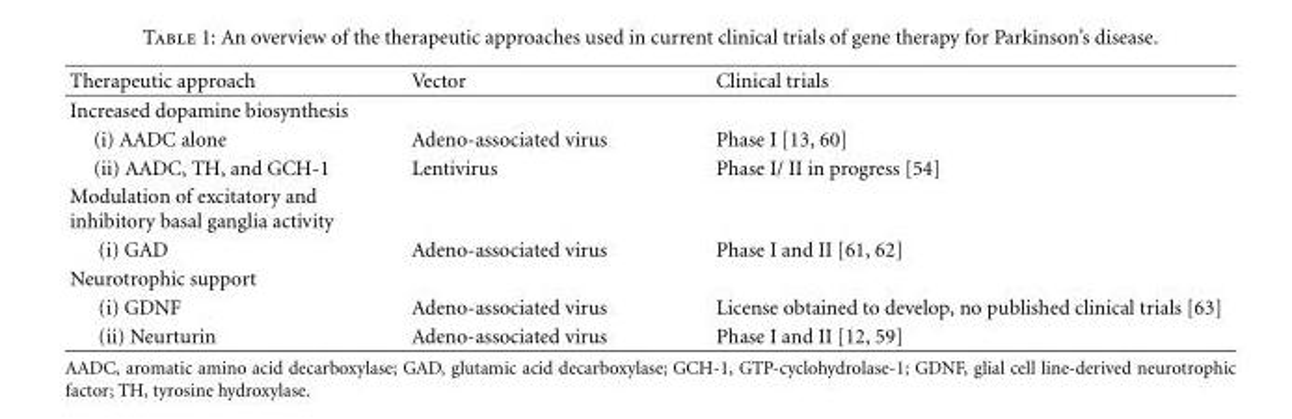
<table><thead><tr><td>Therapeutic approach</td><td>Vector</td><td>Clinical trials</td></tr></thead><tbody><tr><td colspan="3">Increased dopamine biosynthesis</td></tr><tr><td>(i) AADC alone</td><td>Adeno-associated virus</td><td>Phase I [13, 60]</td></tr><tr><td>(ii) AADC, TH, and GCH-1</td><td>Lentivirus</td><td>Phase I/ II in progress [54]</td></tr><tr><td colspan="3">Modulation of excitatory and inhibitory basal ganglia activity</td></tr><tr><td>(i) GAD</td><td>Adeno-associated virus</td><td>Phase I and II [61, 62]</td></tr><tr><td colspan="3">Neurotrophic support</td></tr><tr><td>(i) GDNF</td><td>Adeno-associated virus</td><td>License obtained to develop, no published clinical trials [63]</td></tr><tr><td>(ii) Neurturin</td><td>Adeno-associated virus</td><td>Phase I and II [12, 59]</td></tr></tbody></table>